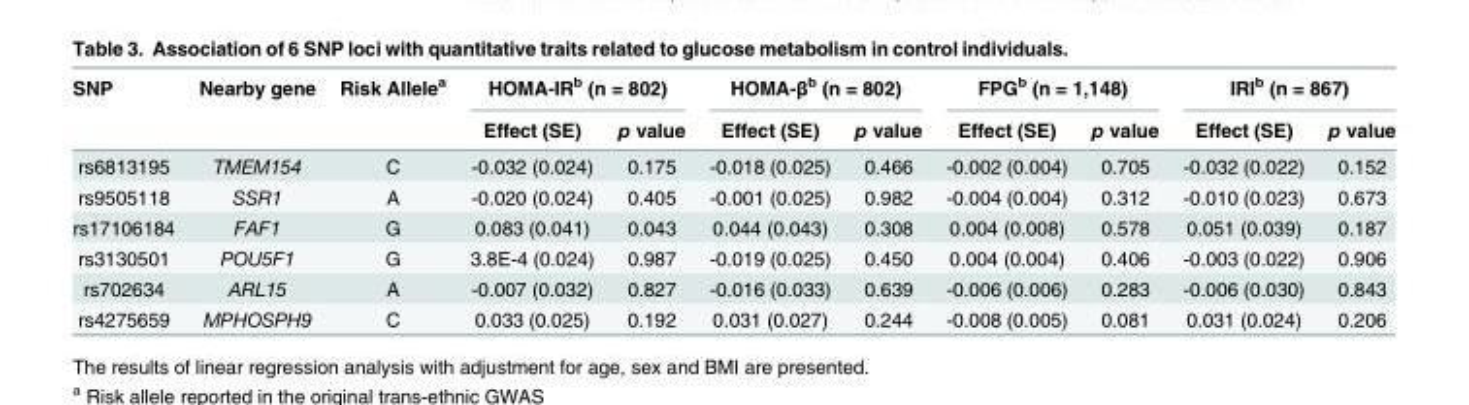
<table><thead><tr><td rowspan="2">SNP</td><td rowspan="2">Nearby gene</td><td rowspan="2">Risk Allele<sup>a</sup></td><td colspan="2">HOMA-IR<sup>b</sup> (n = 802)</td><td colspan="2">HOMA-β<sup>b</sup> (n = 802)</td><td colspan="2">FPG<sup>b</sup> (n = 1,148)</td><td colspan="2">IRI<sup>b</sup> (n = 867)</td></tr><tr><td>Effect (SE)</td><td>p value</td><td>Effect (SE)</td><td>p value</td><td>Effect (SE)</td><td>p value</td><td>Effect (SE)</td><td>p value</td></tr></thead><tbody><tr><td>rs6813195</td><td>TMEM154</td><td>C</td><td>-0.032 (0.024)</td><td>0.175</td><td>-0.018 (0.025)</td><td>0.466</td><td>-0.002 (0.004)</td><td>0.705</td><td>-0.032 (0.022)</td><td>0.152</td></tr><tr><td>rs9505118</td><td>SSR1</td><td>A</td><td>-0.020 (0.024)</td><td>0.405</td><td>-0.001 (0.025)</td><td>0.982</td><td>-0.004 (0.004)</td><td>0.312</td><td>-0.010 (0.023)</td><td>0.673</td></tr><tr><td>rs17106184</td><td>FAF1</td><td>G</td><td>0.083 (0.041)</td><td>0.043</td><td>0.044 (0.043)</td><td>0.308</td><td>0.004 (0.008)</td><td>0.578</td><td>0.051 (0.039)</td><td>0.187</td></tr><tr><td>rs3130501</td><td>POU5F1</td><td>G</td><td>3.8E-4 (0.024)</td><td>0.987</td><td>-0.019 (0.025)</td><td>0.450</td><td>0.004 (0.004)</td><td>0.406</td><td>-0.003 (0.022)</td><td>0.906</td></tr><tr><td>rs702634</td><td>ARL15</td><td>A</td><td>-0.007 (0.032)</td><td>0.827</td><td>-0.016 (0.033)</td><td>0.639</td><td>-0.006 (0.006)</td><td>0.283</td><td>-0.006 (0.030)</td><td>0.843</td></tr><tr><td>rs4275659</td><td>MPHOSPH9</td><td>C</td><td>0.033 (0.025)</td><td>0.192</td><td>0.031 (0.027)</td><td>0.244</td><td>-0.008 (0.005)</td><td>0.081</td><td>0.031 (0.024)</td><td>0.206</td></tr></tbody></table>